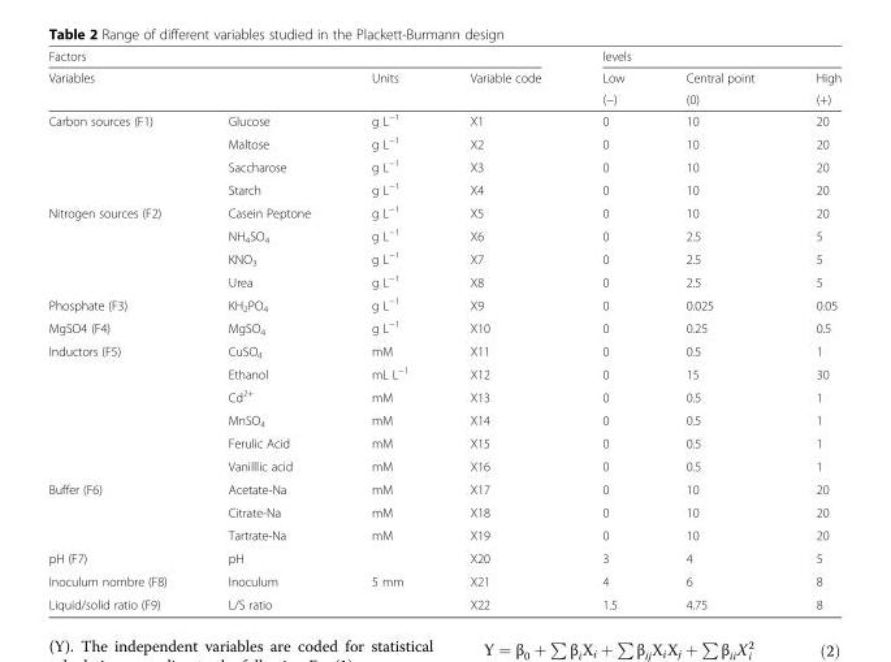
<table><thead><tr><td colspan="4">Factors</td><td colspan="3">levels</td></tr><tr><td rowspan="2">Variables</td><td rowspan="2"></td><td rowspan="2">Units</td><td rowspan="2">Variable code</td><td rowspan="2">Low (−)</td><td rowspan="2">Central point (0)</td><td rowspan="2">High (+)</td></tr><tr></tr></thead><tbody><tr><td rowspan="4">Carbon sources (F1)</td><td>Glucose</td><td>g L<sup>−1</sup></td><td>X1</td><td>0</td><td>10</td><td>20</td></tr><tr><td>Maltose</td><td>g L<sup>−1</sup></td><td>X2</td><td>0</td><td>10</td><td>20</td></tr><tr><td>Saccharose</td><td>g L<sup>−1</sup></td><td>X3</td><td>0</td><td>10</td><td>20</td></tr><tr><td>Starch</td><td>g L<sup>−1</sup></td><td>X4</td><td>0</td><td>10</td><td>20</td></tr><tr><td rowspan="4">Nitrogen sources (F2)</td><td>Casein Peptone</td><td>g L<sup>−1</sup></td><td>X5</td><td>0</td><td>10</td><td>20</td></tr><tr><td>NH<sub>4</sub>SO<sub>4</sub></td><td>g L<sup>−1</sup></td><td>X6</td><td>0</td><td>2.5</td><td>5</td></tr><tr><td>KNO<sub>3</sub></td><td>g L<sup>−1</sup></td><td>X7</td><td>0</td><td>2.5</td><td>5</td></tr><tr><td>Urea</td><td>g L<sup>−1</sup></td><td>X8</td><td>0</td><td>2.5</td><td>5</td></tr><tr><td>Phosphate (F3)</td><td>KH<sub>2</sub>PO<sub>4</sub></td><td>g L<sup>−1</sup></td><td>X9</td><td>0</td><td>0.025</td><td>0.05</td></tr><tr><td>MgSO4 (F4)</td><td>MgSO<sub>4</sub></td><td>g L<sup>−1</sup></td><td>X10</td><td>0</td><td>0.25</td><td>0.5</td></tr><tr><td rowspan="6">Inductors (F5)</td><td>CuSO<sub>4</sub></td><td>mM</td><td>X11</td><td>0</td><td>0.5</td><td>1</td></tr><tr><td>Ethanol</td><td>mL L<sup>−1</sup></td><td>X12</td><td>0</td><td>15</td><td>30</td></tr><tr><td>Cd<sup>2+</sup></td><td>mM</td><td>X13</td><td>0</td><td>0.5</td><td>1</td></tr><tr><td>MnSO<sub>4</sub></td><td>mM</td><td>X14</td><td>0</td><td>0.5</td><td>1</td></tr><tr><td>Ferulic Acid</td><td>mM</td><td>X15</td><td>0</td><td>0.5</td><td>1</td></tr><tr><td>Vanilllic acid</td><td>mM</td><td>X16</td><td>0</td><td>0.5</td><td>1</td></tr><tr><td rowspan="3">Buffer (F6)</td><td>Acetate-Na</td><td>mM</td><td>X17</td><td>0</td><td>10</td><td>20</td></tr><tr><td>Citrate-Na</td><td>mM</td><td>X18</td><td>0</td><td>10</td><td>20</td></tr><tr><td>Tartrate-Na</td><td>mM</td><td>X19</td><td>0</td><td>10</td><td>20</td></tr><tr><td>pH (F7)</td><td>pH</td><td></td><td>X20</td><td>3</td><td>4</td><td>5</td></tr><tr><td>Inoculum nombre (F8)</td><td>Inoculum</td><td>5 mm</td><td>X21</td><td>4</td><td>6</td><td>8</td></tr><tr><td>Liquid/solid ratio (F9)</td><td>L/S ratio</td><td></td><td>X22</td><td>1.5</td><td>4.75</td><td>8</td></tr></tbody></table>